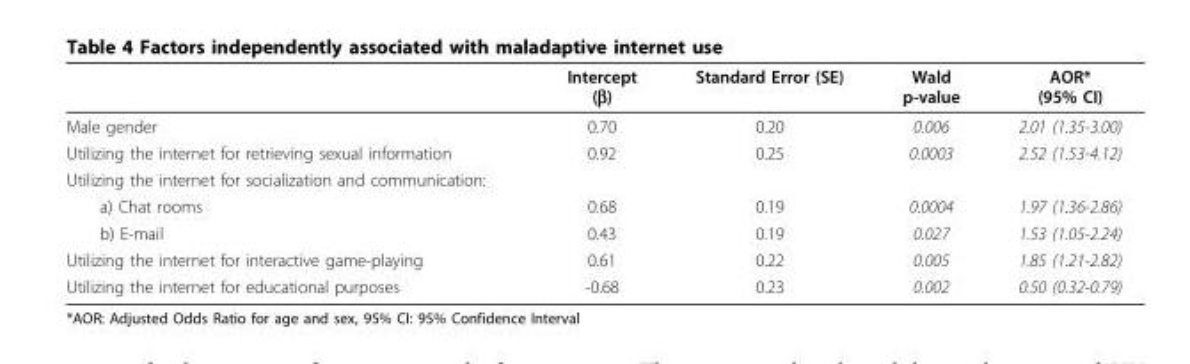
<table><thead><tr><td></td><td>Intercept (β)</td><td>Standard Error (SE)</td><td>Wald p-value</td><td>AOR* (95% CI)</td></tr></thead><tbody><tr><td>Male gender</td><td>0.70</td><td>0.20</td><td>0.006</td><td>2.01 (1.35-3.00)</td></tr><tr><td>Utilizing the internet for retrieving sexual information</td><td>0.92</td><td>0.25</td><td>0.0003</td><td>2.52 (1.53-4.12)</td></tr><tr><td colspan="5">Utilizing the internet for socialization and communication:</td></tr><tr><td>a) Chat rooms</td><td>0.68</td><td>0.19</td><td>0.0004</td><td>1.97 (1.36-2.86)</td></tr><tr><td>b) E-mail</td><td>0.43</td><td>0.19</td><td>0.027</td><td>1.53 (1.05-2.24)</td></tr><tr><td>Utilizing the internet for interactive game-playing</td><td>0.61</td><td>0.22</td><td>0.005</td><td>1.85 (1.21-2.82)</td></tr><tr><td>Utilizing the internet for educational purposes</td><td>-0.68</td><td>0.23</td><td>0.002</td><td>0.50 (0.32-0.79)</td></tr></tbody></table>